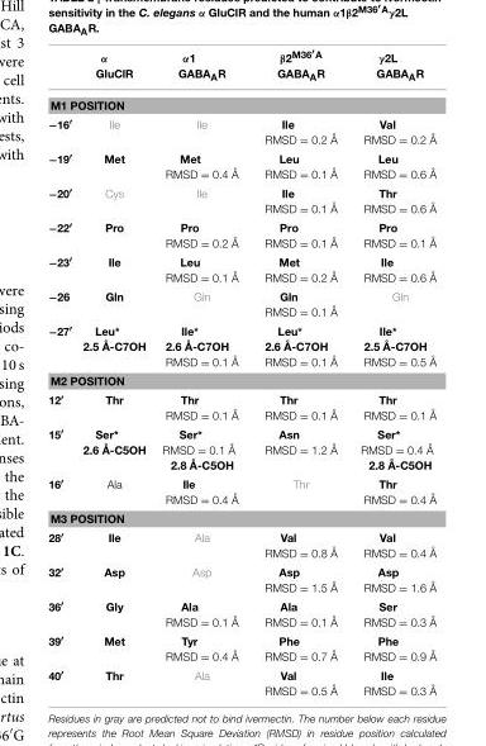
<table><thead><tr><td></td><td>α GluClR</td><td>α1 GABA<sub>A</sub>R</td><td>β2<sup>M36′A</sup> GABA<sub>A</sub>R</td><td>γ2L GABA<sub>A</sub>R</td></tr></thead><tbody><tr><td colspan="5">M1 POSITION</td></tr><tr><td>−16′</td><td>Ile</td><td>Ile</td><td>Ile RMSD = 0.2 Å</td><td>Val RMSD = 0.2 Å</td></tr><tr><td>−19′</td><td>Met</td><td>Met RMSD = 0.4 Å</td><td>Leu RMSD = 0.1 Å</td><td>Leu RMSD = 0.6 Å</td></tr><tr><td>−20′</td><td>Cys</td><td>Ile</td><td>Ile RMSD = 0.1 Å</td><td>Thr RMSD = 0.6 Å</td></tr><tr><td>−22′</td><td>Pro</td><td>Pro RMSD = 0.2 Å</td><td>Pro RMSD = 0.1 Å</td><td>Pro RMSD = 0.1 Å</td></tr><tr><td>−23′</td><td>Ile</td><td>Leu RMSD = 0.1 Å</td><td>Met RMSD = 0.2 Å</td><td>Ile RMSD = 0.6 Å</td></tr><tr><td>−26</td><td>Gln</td><td>Gln</td><td>Gln RMSD = 0.1 Å</td><td>Gln</td></tr><tr><td>−27′</td><td>Leu* 2.5 Å-C7OH</td><td>Ile* 2.6 Å-C7OH RMSD = 0.1 Å</td><td>Leu* 2.6 Å-C7OH RMSD = 0.1 Å</td><td>Ile* 2.5 Å-C7OH RMSD = 0.5 Å</td></tr><tr><td colspan="5">M2 POSITION</td></tr><tr><td>12′</td><td>Thr</td><td>Thr RMSD = 0.1 Å</td><td>Thr RMSD = 0.1 Å</td><td>Thr RMSD = 0.1 Å</td></tr><tr><td>15′</td><td>Ser* 2.6 Å-C5OH</td><td>Ser* RMSD = 0.1 Å 2.8 Å-C5OH</td><td>Asn RMSD = 1.2 Å</td><td>Ser* RMSD = 0.4 Å 2.8 Å-C5OH</td></tr><tr><td>16′</td><td>Ala</td><td>Ile RMSD = 0.4 Å</td><td>Thr</td><td>Thr RMSD = 0.4 Å</td></tr><tr><td colspan="5">M3 POSITION</td></tr><tr><td>28′</td><td>Ile</td><td>Ala</td><td>Val RMSD = 0.8 Å</td><td>Val RMSD = 0.4 Å</td></tr><tr><td>32′</td><td>Asp</td><td>Asp</td><td>Asp RMSD = 1.5 Å</td><td>Asp RMSD = 1.6 Å</td></tr><tr><td>36′</td><td>Gly</td><td>Ala RMSD = 0.1 Å</td><td>Ala RMSD = 0.1 Å</td><td>Ser RMSD = 0.3 Å</td></tr><tr><td>39′</td><td>Met</td><td>Tyr RMSD = 0.4 Å</td><td>Phe RMSD = 0.7 Å</td><td>Phe RMSD = 0.9 Å</td></tr><tr><td>40′</td><td>Thr</td><td>Ala</td><td>Val RMSD = 0.5 Å</td><td>Ile RMSD = 0.3 Å</td></tr></tbody></table>